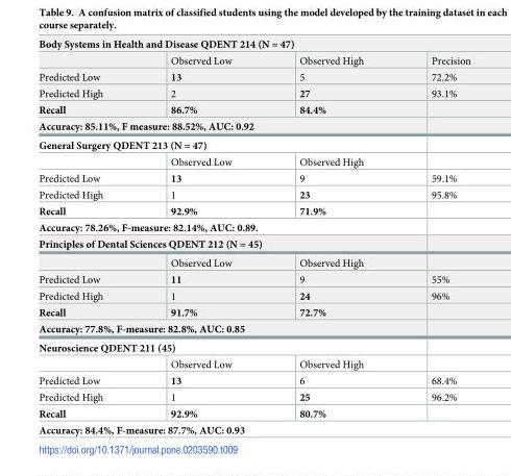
<table><tbody><tr><td colspan="4">Body Systems in Health and Disease QDENT 214 (N = 47)</td></tr><tr><td></td><td>Observed Low</td><td>Observed High</td><td>Precision</td></tr><tr><td>Predicted Low</td><td>13</td><td>5</td><td>72.2%</td></tr><tr><td>Predicted High</td><td>2</td><td>27</td><td>93.1%</td></tr><tr><td>Recall</td><td>86.7%</td><td>84.4%</td><td></td></tr><tr><td colspan="4">Accuracy: 85.11%, F measure: 88.52%, AUC: 0.92</td></tr><tr><td colspan="4">General Surgery QDENT 213 (N = 47)</td></tr><tr><td></td><td>Observed Low</td><td>Observed High</td><td></td></tr><tr><td>Predicted Low</td><td>13</td><td>9</td><td>59.1%</td></tr><tr><td>Predicted High</td><td>1</td><td>23</td><td>95.8%</td></tr><tr><td>Recall</td><td>92.9%</td><td>71.9%</td><td></td></tr><tr><td colspan="4">Accuracy: 78.26%, F-measure: 82.14%, AUC: 0.89.</td></tr><tr><td colspan="4">Principles of Dental Sciences QDENT 212 (N = 45)</td></tr><tr><td></td><td>Observed Low</td><td>Observed High</td><td></td></tr><tr><td>Predicted Low</td><td>11</td><td>9</td><td>55%</td></tr><tr><td>Predicted High</td><td>1</td><td>24</td><td>96%</td></tr><tr><td>Recall</td><td>91.7%</td><td>72.7%</td><td></td></tr><tr><td colspan="4">Accuracy: 77.8%, F-measure: 82.8%, AUC: 0.85</td></tr><tr><td colspan="4">Neuroscience QDENT 211 (45)</td></tr><tr><td></td><td>Observed Low</td><td>Observed High</td><td></td></tr><tr><td>Predicted Low</td><td>13</td><td>6</td><td>68.4%</td></tr><tr><td>Predicted High</td><td>1</td><td>25</td><td>96.2%</td></tr><tr><td>Recall</td><td>92.9%</td><td>80.7%</td><td></td></tr><tr><td colspan="4">Accuracy: 84.4%, F-measure: 87.7%, AUC: 0.93</td></tr></tbody></table>